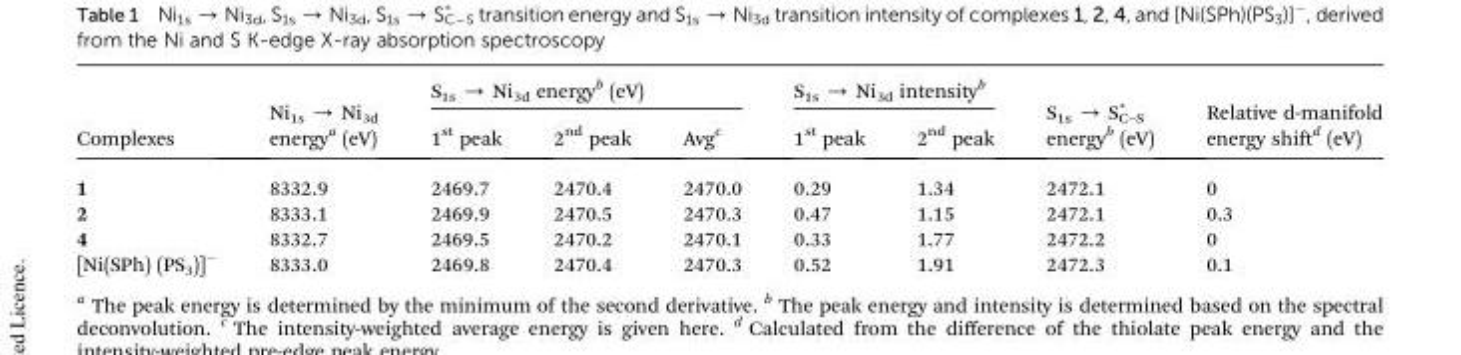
<table><thead><tr><td rowspan="2">Complexes</td><td rowspan="2">Ni<sub>1s</sub> → Ni<sub>3d</sub> energy<sup>a</sup> (eV)</td><td colspan="3">S<sub>1s</sub> → Ni<sub>3d</sub> energy<sup>b</sup> (eV)</td><td colspan="2">S<sub>1s</sub> → Ni<sub>3d</sub> intensity<sup>b</sup></td><td rowspan="2">S<sub>1s</sub> → S*C–S energy<sup>b</sup> (eV)</td><td rowspan="2">Relative d-manifold energy shid (eV)</td></tr><tr><td>1<sup>st</sup> peak</td><td>2<sup>nd</sup> peak</td><td>Avg<sup>c</sup></td><td>1<sup>st</sup> peak</td><td>2<sup>nd</sup> peak</td></tr></thead><tbody><tr><td>1</td><td>8332.9</td><td>2469.7</td><td>2470.4</td><td>2470.0</td><td>0.29</td><td>1.34</td><td>2472.1</td><td>0</td></tr><tr><td>2</td><td>8333.1</td><td>2469.9</td><td>2470.5</td><td>2470.3</td><td>0.47</td><td>1.15</td><td>2472.1</td><td>0.3</td></tr><tr><td>4</td><td>8332.7</td><td>2469.5</td><td>2470.2</td><td>2470.1</td><td>0.33</td><td>1.77</td><td>2472.2</td><td>0</td></tr><tr><td>[Ni(SPh) (PS<sub>3</sub>)]<sup>–</sup></td><td>8333.0</td><td>2469.8</td><td>2470.4</td><td>2470.3</td><td>0.52</td><td>1.91</td><td>2472.3</td><td>0.1</td></tr></tbody></table>